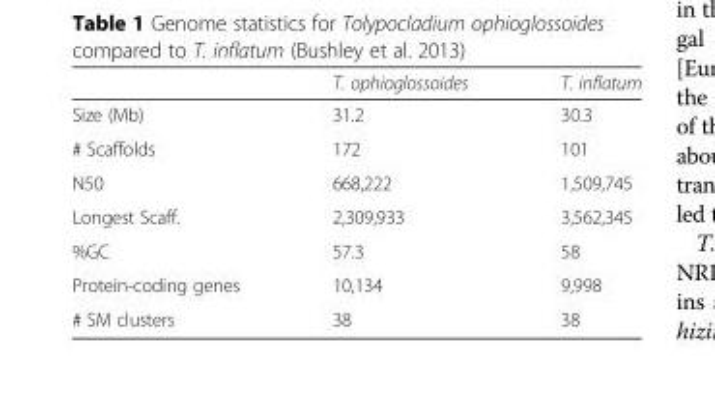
<table><thead><tr><td></td><td>T. ophioglossoides</td><td>T. inflatum</td></tr></thead><tbody><tr><td>Size (Mb)</td><td>31.2</td><td>30.3</td></tr><tr><td># Scaffolds</td><td>172</td><td>101</td></tr><tr><td>N50</td><td>668,222</td><td>1,509,745</td></tr><tr><td>Longest Scaff.</td><td>2,309,933</td><td>3,562,345</td></tr><tr><td>%GC</td><td>57.3</td><td>58</td></tr><tr><td>Protein-coding genes</td><td>10,134</td><td>9,998</td></tr><tr><td># SM clusters</td><td>38</td><td>38</td></tr></tbody></table>